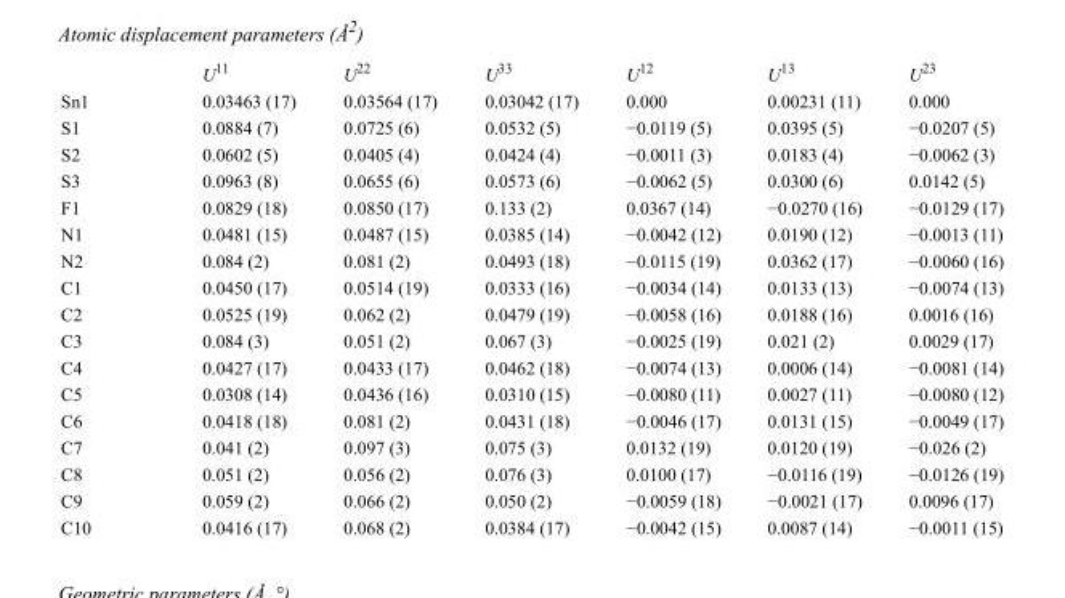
<table><thead><tr><td></td><td>U<sup>11</sup></td><td>U<sup>22</sup></td><td>U<sup>33</sup></td><td>U<sup>12</sup></td><td>U<sup>13</sup></td><td>U<sup>23</sup></td></tr></thead><tbody><tr><td>Sn1</td><td>0.03463 (17)</td><td>0.03564 (17)</td><td>0.03042 (17)</td><td>0.000</td><td>0.00231 (11)</td><td>0.000</td></tr><tr><td>S1</td><td>0.0884 (7)</td><td>0.0725 (6)</td><td>0.0532 (5)</td><td>−0.0119 (5)</td><td>0.0395 (5)</td><td>−0.0207 (5)</td></tr><tr><td>S2</td><td>0.0602 (5)</td><td>0.0405 (4)</td><td>0.0424 (4)</td><td>−0.0011 (3)</td><td>0.0183 (4)</td><td>−0.0062 (3)</td></tr><tr><td>S3</td><td>0.0963 (8)</td><td>0.0655 (6)</td><td>0.0573 (6)</td><td>−0.0062 (5)</td><td>0.0300 (6)</td><td>0.0142 (5)</td></tr><tr><td>F1</td><td>0.0829 (18)</td><td>0.0850 (17)</td><td>0.133 (2)</td><td>0.0367 (14)</td><td>−0.0270 (16)</td><td>−0.0129 (17)</td></tr><tr><td>N1</td><td>0.0481 (15)</td><td>0.0487 (15)</td><td>0.0385 (14)</td><td>−0.0042 (12)</td><td>0.0190 (12)</td><td>−0.0013 (11)</td></tr><tr><td>N2</td><td>0.084 (2)</td><td>0.081 (2)</td><td>0.0493 (18)</td><td>−0.0115 (19)</td><td>0.0362 (17)</td><td>−0.0060 (16)</td></tr><tr><td>C1</td><td>0.0450 (17)</td><td>0.0514 (19)</td><td>0.0333 (16)</td><td>−0.0034 (14)</td><td>0.0133 (13)</td><td>−0.0074 (13)</td></tr><tr><td>C2</td><td>0.0525 (19)</td><td>0.062 (2)</td><td>0.0479 (19)</td><td>−0.0058 (16)</td><td>0.0188 (16)</td><td>0.0016 (16)</td></tr><tr><td>C3</td><td>0.084 (3)</td><td>0.051 (2)</td><td>0.067 (3)</td><td>−0.0025 (19)</td><td>0.021 (2)</td><td>0.0029 (17)</td></tr><tr><td>C4</td><td>0.0427 (17)</td><td>0.0433 (17)</td><td>0.0462 (18)</td><td>−0.0074 (13)</td><td>0.0006 (14)</td><td>−0.0081 (14)</td></tr><tr><td>C5</td><td>0.0308 (14)</td><td>0.0436 (16)</td><td>0.0310 (15)</td><td>−0.0080 (11)</td><td>0.0027 (11)</td><td>−0.0080 (12)</td></tr><tr><td>C6</td><td>0.0418 (18)</td><td>0.081 (2)</td><td>0.0431 (18)</td><td>−0.0046 (17)</td><td>0.0131 (15)</td><td>−0.0049 (17)</td></tr><tr><td>C7</td><td>0.041 (2)</td><td>0.097 (3)</td><td>0.075 (3)</td><td>0.0132 (19)</td><td>0.0120 (19)</td><td>−0.026 (2)</td></tr><tr><td>C8</td><td>0.051 (2)</td><td>0.056 (2)</td><td>0.076 (3)</td><td>0.0100 (17)</td><td>−0.0116 (19)</td><td>−0.0126 (19)</td></tr><tr><td>C9</td><td>0.059 (2)</td><td>0.066 (2)</td><td>0.050 (2)</td><td>−0.0059 (18)</td><td>−0.0021 (17)</td><td>0.0096 (17)</td></tr><tr><td>C10</td><td>0.0416 (17)</td><td>0.068 (2)</td><td>0.0384 (17)</td><td>−0.0042 (15)</td><td>0.0087 (14)</td><td>−0.0011 (15)</td></tr></tbody></table>